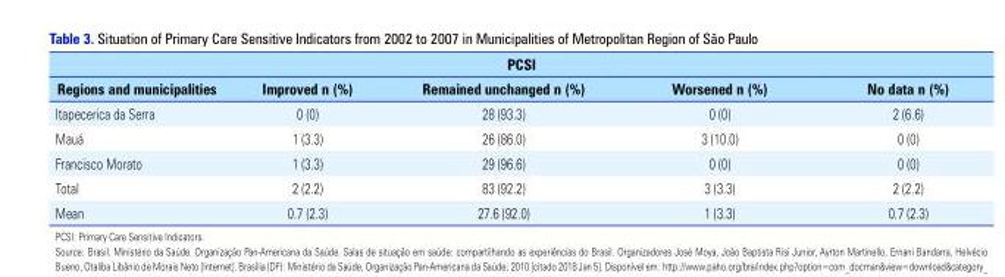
<table><thead><tr><td colspan="5">PCSI</td></tr><tr><td>Regions and municipalities</td><td>Improved n (%)</td><td>Remained unchanged n (%)</td><td>Worsened n (%)</td><td>No data n (%)</td></tr></thead><tbody><tr><td>Itapecerica da Serra</td><td>0 (0)</td><td>28 (93.3)</td><td>0 (0)</td><td>2 (6.6)</td></tr><tr><td>Mauá</td><td>1 (3.3)</td><td>26 (86.0)</td><td>3 (10.0)</td><td>0 (0)</td></tr><tr><td>Francisco Morato</td><td>1 (3.3)</td><td>29 (96.6)</td><td>0 (0)</td><td>0 (0)</td></tr><tr><td>Total</td><td>2 (2.2)</td><td>83 (92.2)</td><td>3 (3.3)</td><td>2 (2.2)</td></tr><tr><td>Mean</td><td>0.7 (2.3)</td><td>27.6 (92.0)</td><td>1 (3.3)</td><td>0.7 (2.3)</td></tr></tbody></table>